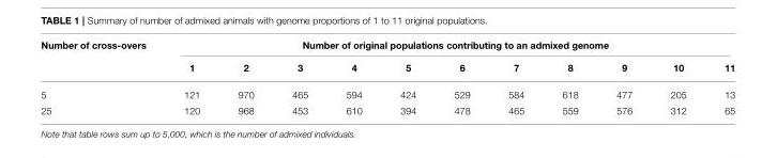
<table><thead><tr><td rowspan="2">Number of cross-overs</td><td colspan="11">Number of original populations contributing to an admixed genome</td></tr><tr><td>1</td><td>2</td><td>3</td><td>4</td><td>5</td><td>6</td><td>7</td><td>8</td><td>9</td><td>10</td><td>11</td></tr></thead><tbody><tr><td>5</td><td>121</td><td>970</td><td>465</td><td>594</td><td>424</td><td>529</td><td>584</td><td>618</td><td>477</td><td>205</td><td>13</td></tr><tr><td>25</td><td>120</td><td>968</td><td>453</td><td>610</td><td>394</td><td>478</td><td>465</td><td>559</td><td>576</td><td>312</td><td>65</td></tr></tbody></table>